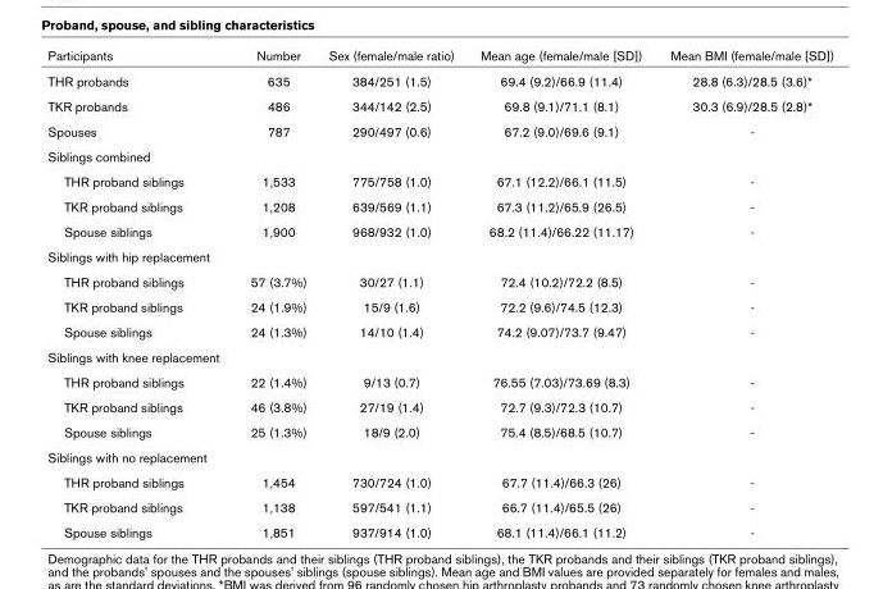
<table><thead><tr><td>Participants</td><td>Number</td><td>Sex (female/male ratio)</td><td>Mean age (female/male [SD])</td><td>Mean BMI (female/male [SD])</td></tr></thead><tbody><tr><td>THR probands</td><td>635</td><td>384/251 (1.5)</td><td>69.4 (9.2)/66.9 (11.4)</td><td>28.8 (6.3)/28.5 (3.6)*</td></tr><tr><td>TKR probands</td><td>486</td><td>344/142 (2.5)</td><td>69.8 (9.1)/71.1 (8.1)</td><td>30.3 (6.9)/28.5 (2.8)*</td></tr><tr><td>Spouses</td><td>787</td><td>290/497 (0.6)</td><td>67.2 (9.0)/69.6 (9.1)</td><td>-</td></tr><tr><td colspan="5">Siblings combined</td></tr><tr><td>THR proband siblings</td><td>1,533</td><td>775/758 (1.0)</td><td>67.1 (12.2)/66.1 (11.5)</td><td>-</td></tr><tr><td>TKR proband siblings</td><td>1,208</td><td>639/569 (1.1)</td><td>67.3 (11.2)/65.9 (26.5)</td><td>-</td></tr><tr><td>Spouse siblings</td><td>1,900</td><td>968/932 (1.0)</td><td>68.2 (11.4)/66.22 (11.17)</td><td>-</td></tr><tr><td colspan="5">Siblings with hip replacement</td></tr><tr><td>THR proband siblings</td><td>57 (3.7%)</td><td>30/27 (1.1)</td><td>72.4 (10.2)/72.2 (8.5)</td><td>-</td></tr><tr><td>TKR proband siblings</td><td>24 (1.9%)</td><td>15/9 (1.6)</td><td>72.2 (9.6)/74.5 (12.3)</td><td>-</td></tr><tr><td>Spouse siblings</td><td>24 (1.3%)</td><td>14/10 (1.4)</td><td>74.2 (9.07)/73.7 (9.47)</td><td>-</td></tr><tr><td colspan="5">Siblings with knee replacement</td></tr><tr><td>THR proband siblings</td><td>22 (1.4%)</td><td>9/13 (0.7)</td><td>76.55 (7.03)/73.69 (8.3)</td><td>-</td></tr><tr><td>TKR proband siblings</td><td>46 (3.8%)</td><td>27/19 (1.4)</td><td>72.7 (9.3)/72.3 (10.7)</td><td>-</td></tr><tr><td>Spouse siblings</td><td>25 (1.3%)</td><td>18/9 (2.0)</td><td>75.4 (8.5)/68.5 (10.7)</td><td>-</td></tr><tr><td colspan="5">Siblings with no replacement</td></tr><tr><td>THR proband siblings</td><td>1,454</td><td>730/724 (1.0)</td><td>67.7 (11.4)/66.3 (26)</td><td>-</td></tr><tr><td>TKR proband siblings</td><td>1,138</td><td>597/541 (1.1)</td><td>66.7 (11.4)/65.5 (26)</td><td>-</td></tr><tr><td>Spouse siblings</td><td>1,851</td><td>937/914 (1.0)</td><td>68.1 (11.4)/66.1 (11.2)</td><td>-</td></tr></tbody></table>